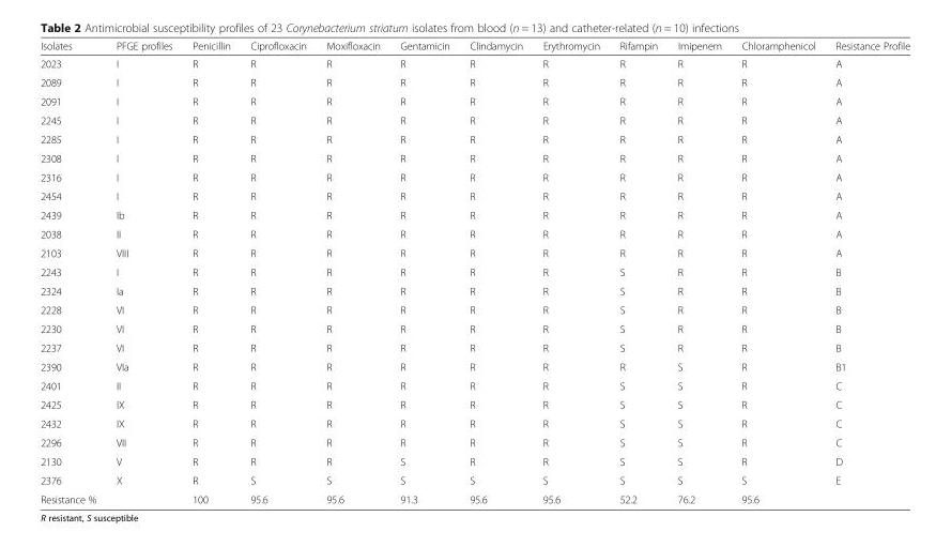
<table><thead><tr><td>Isolates</td><td>PFGE profiles</td><td>Penicillin</td><td>Ciprofloxacin</td><td>Moxifloxacin</td><td>Gentamicin</td><td>Clindamycin</td><td>Erythromycin</td><td>Rifampin</td><td>Imipenem</td><td>Chloramphenicol</td><td>Resistance Profile</td></tr></thead><tbody><tr><td>2023</td><td>I</td><td>R</td><td>R</td><td>R</td><td>R</td><td>R</td><td>R</td><td>R</td><td>R</td><td>R</td><td>A</td></tr><tr><td>2089</td><td>I</td><td>R</td><td>R</td><td>R</td><td>R</td><td>R</td><td>R</td><td>R</td><td>R</td><td>R</td><td>A</td></tr><tr><td>2091</td><td>I</td><td>R</td><td>R</td><td>R</td><td>R</td><td>R</td><td>R</td><td>R</td><td>R</td><td>R</td><td>A</td></tr><tr><td>2245</td><td>I</td><td>R</td><td>R</td><td>R</td><td>R</td><td>R</td><td>R</td><td>R</td><td>R</td><td>R</td><td>A</td></tr><tr><td>2285</td><td>I</td><td>R</td><td>R</td><td>R</td><td>R</td><td>R</td><td>R</td><td>R</td><td>R</td><td>R</td><td>A</td></tr><tr><td>2308</td><td>I</td><td>R</td><td>R</td><td>R</td><td>R</td><td>R</td><td>R</td><td>R</td><td>R</td><td>R</td><td>A</td></tr><tr><td>2316</td><td>I</td><td>R</td><td>R</td><td>R</td><td>R</td><td>R</td><td>R</td><td>R</td><td>R</td><td>R</td><td>A</td></tr><tr><td>2454</td><td>I</td><td>R</td><td>R</td><td>R</td><td>R</td><td>R</td><td>R</td><td>R</td><td>R</td><td>R</td><td>A</td></tr><tr><td>2439</td><td>Ib</td><td>R</td><td>R</td><td>R</td><td>R</td><td>R</td><td>R</td><td>R</td><td>R</td><td>R</td><td>A</td></tr><tr><td>2038</td><td>II</td><td>R</td><td>R</td><td>R</td><td>R</td><td>R</td><td>R</td><td>R</td><td>R</td><td>R</td><td>A</td></tr><tr><td>2103</td><td>VIII</td><td>R</td><td>R</td><td>R</td><td>R</td><td>R</td><td>R</td><td>R</td><td>R</td><td>R</td><td>A</td></tr><tr><td>2243</td><td>I</td><td>R</td><td>R</td><td>R</td><td>R</td><td>R</td><td>R</td><td>S</td><td>R</td><td>R</td><td>B</td></tr><tr><td>2324</td><td>Ia</td><td>R</td><td>R</td><td>R</td><td>R</td><td>R</td><td>R</td><td>S</td><td>R</td><td>R</td><td>B</td></tr><tr><td>2228</td><td>VI</td><td>R</td><td>R</td><td>R</td><td>R</td><td>R</td><td>R</td><td>S</td><td>R</td><td>R</td><td>B</td></tr><tr><td>2230</td><td>VI</td><td>R</td><td>R</td><td>R</td><td>R</td><td>R</td><td>R</td><td>S</td><td>R</td><td>R</td><td>B</td></tr><tr><td>2237</td><td>VI</td><td>R</td><td>R</td><td>R</td><td>R</td><td>R</td><td>R</td><td>S</td><td>R</td><td>R</td><td>B</td></tr><tr><td>2390</td><td>VIa</td><td>R</td><td>R</td><td>R</td><td>R</td><td>R</td><td>R</td><td>R</td><td>S</td><td>R</td><td>B1</td></tr><tr><td>2401</td><td>II</td><td>R</td><td>R</td><td>R</td><td>R</td><td>R</td><td>R</td><td>S</td><td>S</td><td>R</td><td>C</td></tr><tr><td>2425</td><td>IX</td><td>R</td><td>R</td><td>R</td><td>R</td><td>R</td><td>R</td><td>S</td><td>S</td><td>R</td><td>C</td></tr><tr><td>2432</td><td>IX</td><td>R</td><td>R</td><td>R</td><td>R</td><td>R</td><td>R</td><td>S</td><td>S</td><td>R</td><td>C</td></tr><tr><td>2296</td><td>VII</td><td>R</td><td>R</td><td>R</td><td>R</td><td>R</td><td>R</td><td>S</td><td>S</td><td>R</td><td>C</td></tr><tr><td>2130</td><td>V</td><td>R</td><td>R</td><td>R</td><td>S</td><td>R</td><td>R</td><td>S</td><td>S</td><td>R</td><td>D</td></tr><tr><td>2376</td><td>X</td><td>R</td><td>S</td><td>S</td><td>S</td><td>S</td><td>S</td><td>S</td><td>S</td><td>S</td><td>E</td></tr><tr><td>Resistance %</td><td></td><td>100</td><td>95.6</td><td>95.6</td><td>91.3</td><td>95.6</td><td>95.6</td><td>52.2</td><td>76.2</td><td>95.6</td><td></td></tr></tbody></table>